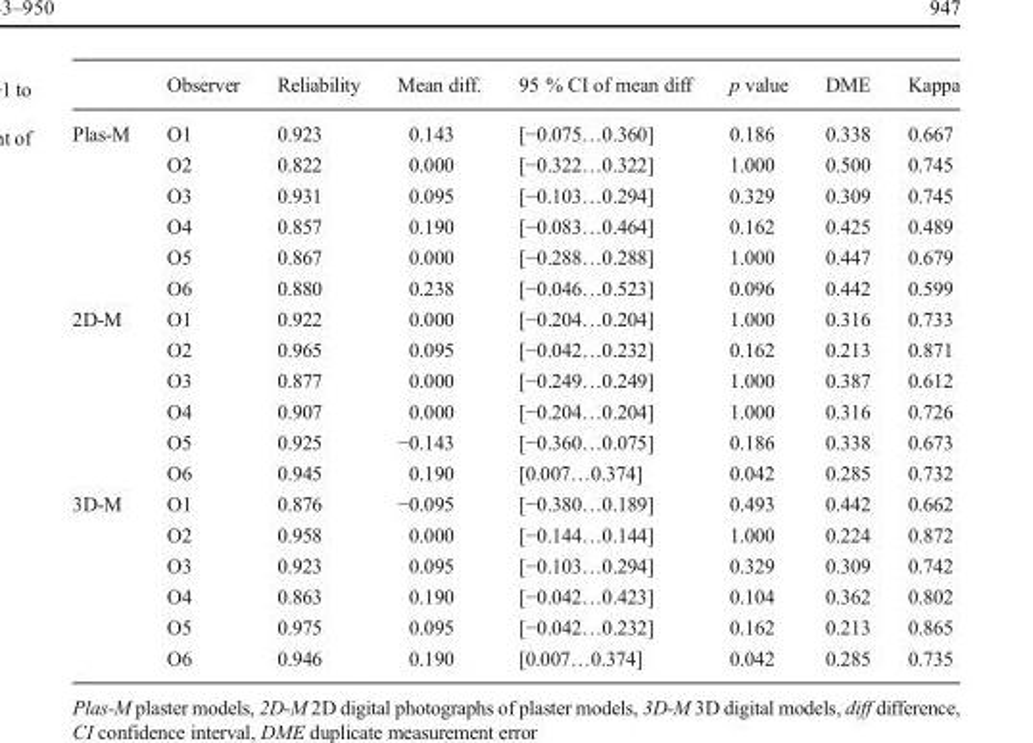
<table><thead><tr><td></td><td>Observer</td><td>Reliability</td><td>Mean diff.</td><td>95 % CI of mean diff</td><td>p value</td><td>DME</td><td>Kappa</td></tr></thead><tbody><tr><td rowspan="6">Plas-M</td><td>O1</td><td>0.923</td><td>0.143</td><td>[−0.075…0.360]</td><td>0.186</td><td>0.338</td><td>0.667</td></tr><tr><td>O2</td><td>0.822</td><td>0.000</td><td>[−0.322…0.322]</td><td>1.000</td><td>0.500</td><td>0.745</td></tr><tr><td>O3</td><td>0.931</td><td>0.095</td><td>[−0.103…0.294]</td><td>0.329</td><td>0.309</td><td>0.745</td></tr><tr><td>O4</td><td>0.857</td><td>0.190</td><td>[−0.083…0.464]</td><td>0.162</td><td>0.425</td><td>0.489</td></tr><tr><td>O5</td><td>0.867</td><td>0.000</td><td>[−0.288…0.288]</td><td>1.000</td><td>0.447</td><td>0.679</td></tr><tr><td>O6</td><td>0.880</td><td>0.238</td><td>[−0.046…0.523]</td><td>0.096</td><td>0.442</td><td>0.599</td></tr><tr><td rowspan="6">2D-M</td><td>O1</td><td>0.922</td><td>0.000</td><td>[−0.204…0.204]</td><td>1.000</td><td>0.316</td><td>0.733</td></tr><tr><td>O2</td><td>0.965</td><td>0.095</td><td>[−0.042…0.232]</td><td>0.162</td><td>0.213</td><td>0.871</td></tr><tr><td>O3</td><td>0.877</td><td>0.000</td><td>[−0.249…0.249]</td><td>1.000</td><td>0.387</td><td>0.612</td></tr><tr><td>O4</td><td>0.907</td><td>0.000</td><td>[−0.204…0.204]</td><td>1.000</td><td>0.316</td><td>0.726</td></tr><tr><td>O5</td><td>0.925</td><td>−0.143</td><td>[−0.360…0.075]</td><td>0.186</td><td>0.338</td><td>0.673</td></tr><tr><td>O6</td><td>0.945</td><td>0.190</td><td>[0.007…0.374]</td><td>0.042</td><td>0.285</td><td>0.732</td></tr><tr><td rowspan="6">3D-M</td><td>O1</td><td>0.876</td><td>−0.095</td><td>[−0.380…0.189]</td><td>0.493</td><td>0.442</td><td>0.662</td></tr><tr><td>O2</td><td>0.958</td><td>0.000</td><td>[−0.144…0.144]</td><td>1.000</td><td>0.224</td><td>0.872</td></tr><tr><td>O3</td><td>0.923</td><td>0.095</td><td>[−0.103…0.294]</td><td>0.329</td><td>0.309</td><td>0.742</td></tr><tr><td>O4</td><td>0.863</td><td>0.190</td><td>[−0.042…0.423]</td><td>0.104</td><td>0.362</td><td>0.802</td></tr><tr><td>O5</td><td>0.975</td><td>0.095</td><td>[−0.042…0.232]</td><td>0.162</td><td>0.213</td><td>0.865</td></tr><tr><td>O6</td><td>0.946</td><td>0.190</td><td>[0.007…0.374]</td><td>0.042</td><td>0.285</td><td>0.735</td></tr></tbody></table>